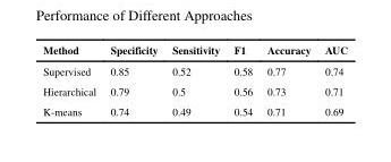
<table><thead><tr><td>Method</td><td>Specificity</td><td>Sensitivity</td><td>F1</td><td>Accuracy</td><td>AUC</td></tr></thead><tbody><tr><td>Supervised</td><td>0.85</td><td>0.52</td><td>0.58</td><td>0.77</td><td>0.74</td></tr><tr><td>Hierarchical</td><td>0.79</td><td>0.5</td><td>0.56</td><td>0.73</td><td>0.71</td></tr><tr><td>K-means</td><td>0.74</td><td>0.49</td><td>0.54</td><td>0.71</td><td>0.69</td></tr></tbody></table>